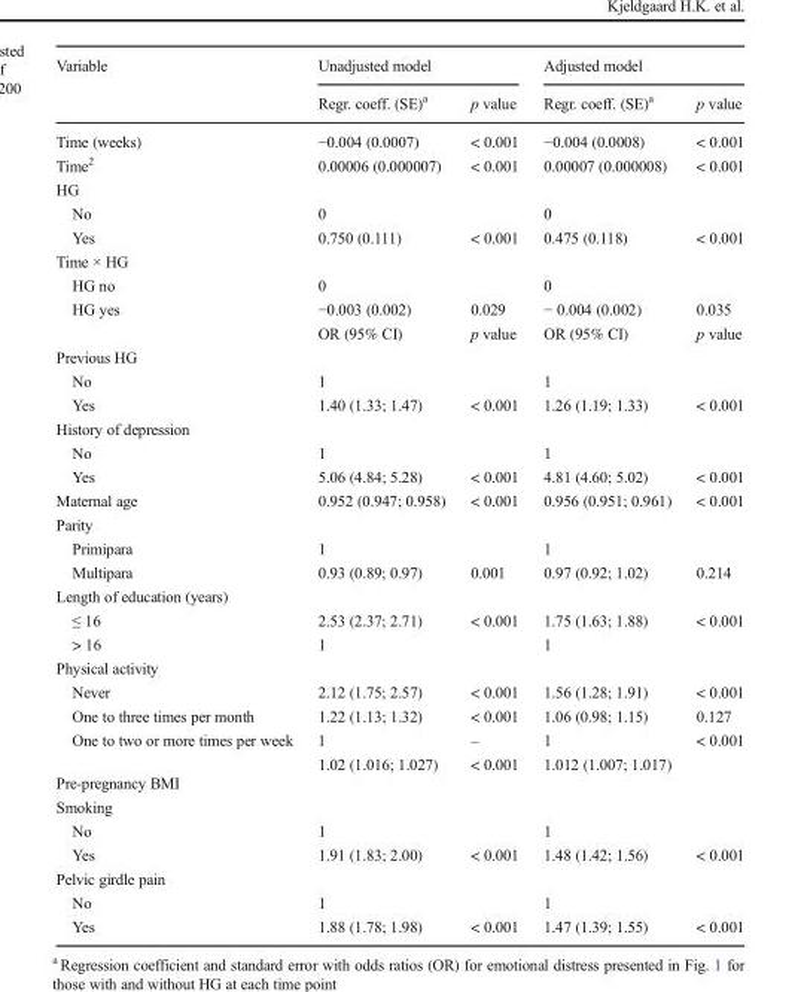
<table><thead><tr><td rowspan="2">Variable</td><td colspan="2">Unadjusted model</td><td colspan="2">Adjusted model</td></tr><tr><td>Regr. coeff. (SE)<sup>a</sup></td><td>p value</td><td>Regr. coeff. (SE)<sup>a</sup></td><td>p value</td></tr></thead><tbody><tr><td>Time (weeks)</td><td>−0.004 (0.0007)</td><td>&lt; 0.001</td><td>−0.004 (0.0008)</td><td>&lt; 0.001</td></tr><tr><td>Time<sup>2</sup></td><td>0.00006 (0.000007)</td><td>&lt; 0.001</td><td>0.00007 (0.000008)</td><td>&lt; 0.001</td></tr><tr><td colspan="5">HG</td></tr><tr><td>No</td><td>0</td><td></td><td>0</td><td></td></tr><tr><td>Yes</td><td>0.750 (0.111)</td><td>&lt; 0.001</td><td>0.475 (0.118)</td><td>&lt; 0.001</td></tr><tr><td colspan="5">Time × HG</td></tr><tr><td>HG no</td><td>0</td><td></td><td>0</td><td></td></tr><tr><td rowspan="2">HG yes</td><td>−0.003 (0.002)</td><td>0.029</td><td>− 0.004 (0.002)</td><td>0.035</td></tr><tr><td>OR (95% CI)</td><td>p value</td><td>OR (95% CI)</td><td>p value</td></tr><tr><td colspan="5">Previous HG</td></tr><tr><td>No</td><td>1</td><td></td><td>1</td><td></td></tr><tr><td>Yes</td><td>1.40 (1.33; 1.47)</td><td>&lt; 0.001</td><td>1.26 (1.19; 1.33)</td><td>&lt; 0.001</td></tr><tr><td colspan="5">History of depression</td></tr><tr><td>No</td><td>1</td><td></td><td>1</td><td></td></tr><tr><td>Yes</td><td>5.06 (4.84; 5.28)</td><td>&lt; 0.001</td><td>4.81 (4.60; 5.02)</td><td>&lt; 0.001</td></tr><tr><td>Maternal age</td><td>0.952 (0.947; 0.958)</td><td>&lt; 0.001</td><td>0.956 (0.951; 0.961)</td><td>&lt; 0.001</td></tr><tr><td colspan="5">Parity</td></tr><tr><td>Primipara</td><td>1</td><td></td><td>1</td><td></td></tr><tr><td>Multipara</td><td>0.93 (0.89; 0.97)</td><td>0.001</td><td>0.97 (0.92; 1.02)</td><td>0.214</td></tr><tr><td colspan="5">Length of education (years)</td></tr><tr><td>≤ 16</td><td>2.53 (2.37; 2.71)</td><td>&lt; 0.001</td><td>1.75 (1.63; 1.88)</td><td>&lt; 0.001</td></tr><tr><td>&gt; 16</td><td>1</td><td></td><td>1</td><td></td></tr><tr><td colspan="5">Physical activity</td></tr><tr><td>Never</td><td>2.12 (1.75; 2.57)</td><td>&lt; 0.001</td><td>1.56 (1.28; 1.91)</td><td>&lt; 0.001</td></tr><tr><td>One to three times per month</td><td>1.22 (1.13; 1.32)</td><td>&lt; 0.001</td><td>1.06 (0.98; 1.15)</td><td>0.127</td></tr><tr><td>One to two or more times per week</td><td>1 1.02 (1.016; 1.027)</td><td>– &lt; 0.001</td><td>1 1.012 (1.007; 1.017)</td><td>&lt; 0.001</td></tr><tr><td colspan="5">Pre-pregnancy BMI Smoking</td></tr><tr><td>No</td><td>1</td><td></td><td>1</td><td></td></tr><tr><td>Yes</td><td>1.91 (1.83; 2.00)</td><td>&lt; 0.001</td><td>1.48 (1.42; 1.56)</td><td>&lt; 0.001</td></tr><tr><td colspan="5">Pelvic girdle pain</td></tr><tr><td>No</td><td>1</td><td></td><td>1</td><td></td></tr><tr><td>Yes</td><td>1.88 (1.78; 1.98)</td><td>&lt; 0.001</td><td>1.47 (1.39; 1.55)</td><td>&lt; 0.001</td></tr></tbody></table>